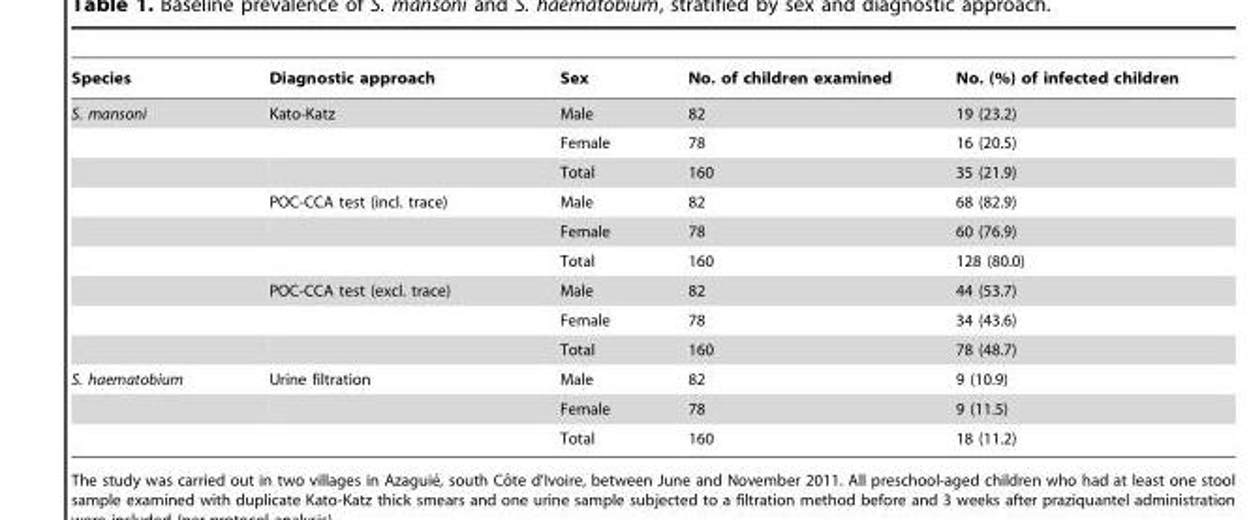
<table><thead><tr><td>Species</td><td>Diagnostic approach</td><td>Sex</td><td>No. of children examined</td><td>No. (%) of infected children</td></tr></thead><tbody><tr><td rowspan="9">S. mansoni</td><td>Kato-Katz</td><td>Male</td><td>82</td><td>19 (23.2)</td></tr><tr><td></td><td>Female</td><td>78</td><td>16 (20.5)</td></tr><tr><td></td><td>Total</td><td>160</td><td>35 (21.9)</td></tr><tr><td>POC-CCA test (incl. trace)</td><td>Male</td><td>82</td><td>68 (82.9)</td></tr><tr><td></td><td>Female</td><td>78</td><td>60 (76.9)</td></tr><tr><td></td><td>Total</td><td>160</td><td>128 (80.0)</td></tr><tr><td>POC-CCA test (excl. trace)</td><td>Male</td><td>82</td><td>44 (53.7)</td></tr><tr><td></td><td>Female</td><td>78</td><td>34 (43.6)</td></tr><tr><td></td><td>Total</td><td>160</td><td>78 (48.7)</td></tr><tr><td rowspan="3">S. haematobium</td><td>Urine filtration</td><td>Male</td><td>82</td><td>9 (10.9)</td></tr><tr><td></td><td>Female</td><td>78</td><td>9 (11.5)</td></tr><tr><td></td><td>Total</td><td>160</td><td>18 (11.2)</td></tr></tbody></table>